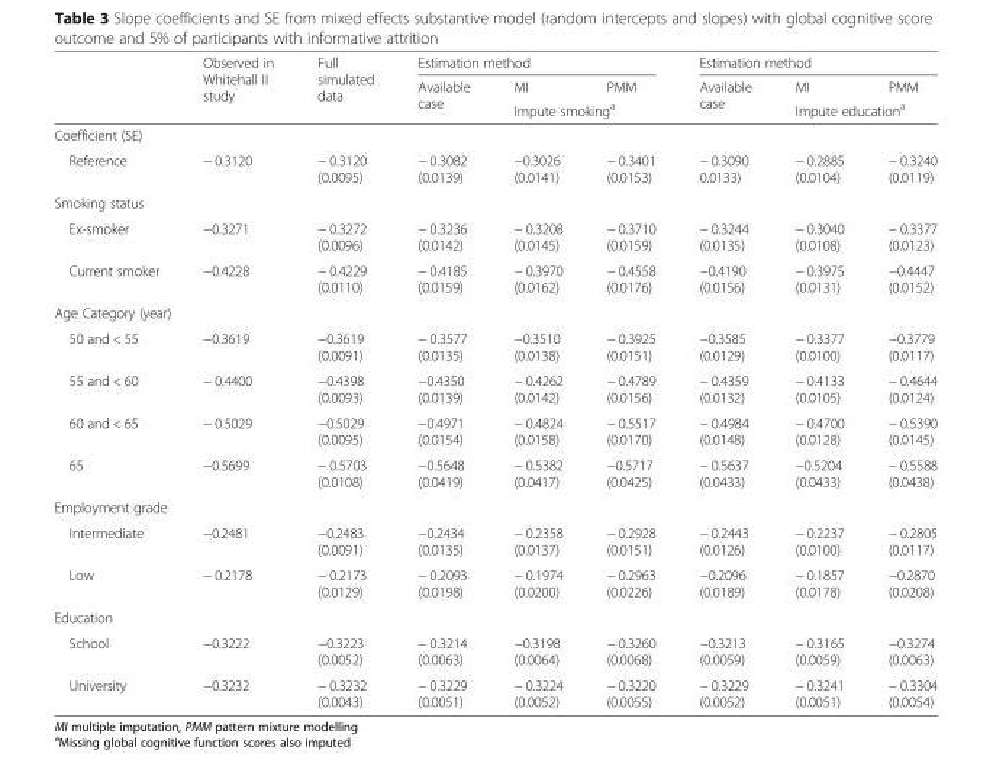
<table><thead><tr><td rowspan="3"></td><td rowspan="3">Observed in Whitehall II study</td><td rowspan="3">Full simulated data</td><td colspan="3">Estimation method</td><td colspan="3">Estimation method</td></tr><tr><td rowspan="2">Available case</td><td>MI</td><td>PMM</td><td rowspan="2">Available case</td><td>MI</td><td>PMM</td></tr><tr><td colspan="2">Impute smoking<sup>a</sup></td><td colspan="2">Impute education<sup>a</sup></td></tr></thead><tbody><tr><td colspan="9">Coefficient (SE)</td></tr><tr><td>Reference</td><td>− 0.3120</td><td>− 0.3120 (0.0095)</td><td>− 0.3082 (0.0139)</td><td>−0.3026 (0.0141)</td><td>− 0.3401 (0.0153)</td><td>− 0.3090 0.0133)</td><td>− 0.2885 (0.0104)</td><td>− 0.3240 (0.0119)</td></tr><tr><td colspan="9">Smoking status</td></tr><tr><td>Ex-smoker</td><td>−0.3271</td><td>− 0.3272 (0.0096)</td><td>− 0.3236 (0.0142)</td><td>− 0.3208 (0.0145)</td><td>− 0.3710 (0.0159)</td><td>− 0.3244 (0.0135)</td><td>− 0.3040 (0.0108)</td><td>− 0.3377 (0.0123)</td></tr><tr><td>Current smoker</td><td>−0.4228</td><td>− 0.4229 (0.0110)</td><td>− 0.4185 (0.0159)</td><td>− 0.3970 (0.0162)</td><td>− 0.4558 (0.0176)</td><td>−0.4190 (0.0156)</td><td>− 0.3975 (0.0131)</td><td>−0.4447 (0.0152)</td></tr><tr><td colspan="9">Age Category (year)</td></tr><tr><td>50 and &lt; 55</td><td>−0.3619</td><td>−0.3619 (0.0091)</td><td>− 0.3577 (0.0135)</td><td>−0.3510 (0.0138)</td><td>− 0.3925 (0.0151)</td><td>−0.3585 (0.0129)</td><td>− 0.3377 (0.0100)</td><td>−0.3779 (0.0117)</td></tr><tr><td>55 and &lt; 60</td><td>− 0.4400</td><td>−0.4398 (0.0093)</td><td>−0.4350 (0.0139)</td><td>− 0.4262 (0.0142)</td><td>− 0.4789 (0.0156)</td><td>− 0.4359 (0.0132)</td><td>− 0.4133 (0.0105)</td><td>− 0.4644 (0.0124)</td></tr><tr><td>60 and &lt; 65</td><td>− 0.5029</td><td>−0.5029 (0.0095)</td><td>−0.4971 (0.0154)</td><td>− 0.4824 (0.0158)</td><td>− 0.5517 (0.0170)</td><td>− 0.4984 (0.0148)</td><td>− 0.4700 (0.0128)</td><td>− 0.5390 (0.0145)</td></tr><tr><td>65</td><td>−0.5699</td><td>− 0.5703 (0.0108)</td><td>−0.5648 (0.0419)</td><td>− 0.5382 (0.0417)</td><td>−0.5717 (0.0425)</td><td>− 0.5637 (0.0433)</td><td>−0.5204 (0.0433)</td><td>− 0.5588 (0.0438)</td></tr><tr><td colspan="9">Employment grade</td></tr><tr><td>Intermediate</td><td>−0.2481</td><td>−0.2483 (0.0091)</td><td>−0.2434 (0.0135)</td><td>− 0.2358 (0.0137)</td><td>− 0.2928 (0.0151)</td><td>− 0.2443 (0.0126)</td><td>− 0.2237 (0.0100)</td><td>− 0.2805 (0.0117)</td></tr><tr><td>Low</td><td>− 0.2178</td><td>− 0.2173 (0.0129)</td><td>− 0.2093 (0.0198)</td><td>− 0.1974 (0.0200)</td><td>− 0.2963 (0.0226)</td><td>−0.2096 (0.0189)</td><td>− 0.1857 (0.0178)</td><td>−0.2870 (0.0208)</td></tr><tr><td colspan="9">Education</td></tr><tr><td>School</td><td>−0.3222</td><td>−0.3223 (0.0052)</td><td>− 0.3214 (0.0063)</td><td>−0.3198 (0.0064)</td><td>− 0.3260 (0.0068)</td><td>−0.3213 (0.0059)</td><td>− 0.3165 (0.0059)</td><td>−0.3274 (0.0063)</td></tr><tr><td>University</td><td>−0.3232</td><td>− 0.3232 (0.0043)</td><td>− 0.3229 (0.0051)</td><td>− 0.3224 (0.0052)</td><td>− 0.3220 (0.0055)</td><td>− 0.3229 (0.0052)</td><td>− 0.3241 (0.0051)</td><td>− 0.3304 (0.0054)</td></tr></tbody></table>